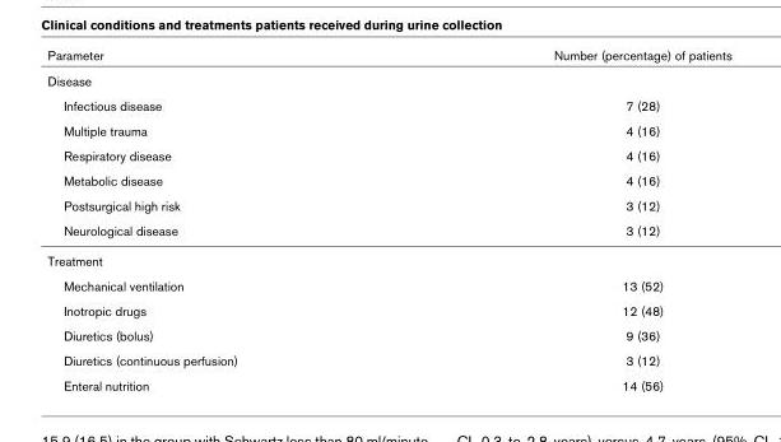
<table><thead><tr><td>Parameter</td><td>Number (percentage) of patients</td></tr></thead><tbody><tr><td colspan="2">Disease</td></tr><tr><td>Infectious disease</td><td>7 (28)</td></tr><tr><td>Multiple trauma</td><td>4 (16)</td></tr><tr><td>Respiratory disease</td><td>4 (16)</td></tr><tr><td>Metabolic disease</td><td>4 (16)</td></tr><tr><td>Postsurgical high risk</td><td>3 (12)</td></tr><tr><td>Neurological disease</td><td>3 (12)</td></tr><tr><td colspan="2">Treatment</td></tr><tr><td>Mechanical ventilation</td><td>13 (52)</td></tr><tr><td>Inotropic drugs</td><td>12 (48)</td></tr><tr><td>Diuretics (bolus)</td><td>9 (36)</td></tr><tr><td>Diuretics (continuous perfusion)</td><td>3 (12)</td></tr><tr><td>Enteral nutrition</td><td>14 (56)</td></tr></tbody></table>